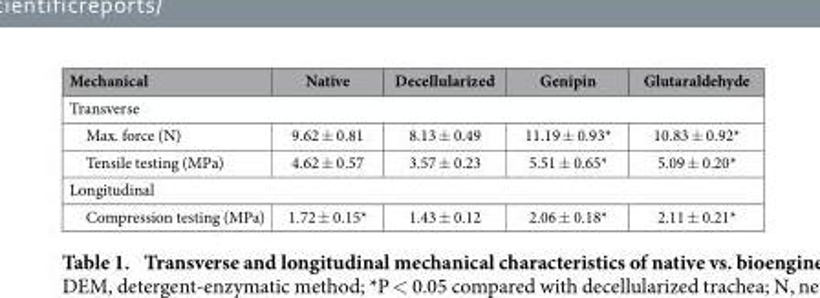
<table><thead><tr><td>Mechanical</td><td>Native</td><td>Decellularized</td><td>Genipin</td><td>Glutaraldehyde</td></tr></thead><tbody><tr><td colspan="5">Transverse</td></tr><tr><td>Max. force (N)</td><td>9.62 ± 0.81</td><td>8.13 ± 0.49</td><td>11.19 ± 0.93*</td><td>10.83 ± 0.92*</td></tr><tr><td>Tensile testing (MPa)</td><td>4.62 ± 0.57</td><td>3.57 ± 0.23</td><td>5.51 ± 0.65*</td><td>5.09 ± 0.20*</td></tr><tr><td colspan="5">Longitudinal</td></tr><tr><td>Compression testing (MPa)</td><td>1.72 ± 0.15*</td><td>1.43 ± 0.12</td><td>2.06 ± 0.18*</td><td>2.11 ± 0.21*</td></tr></tbody></table>